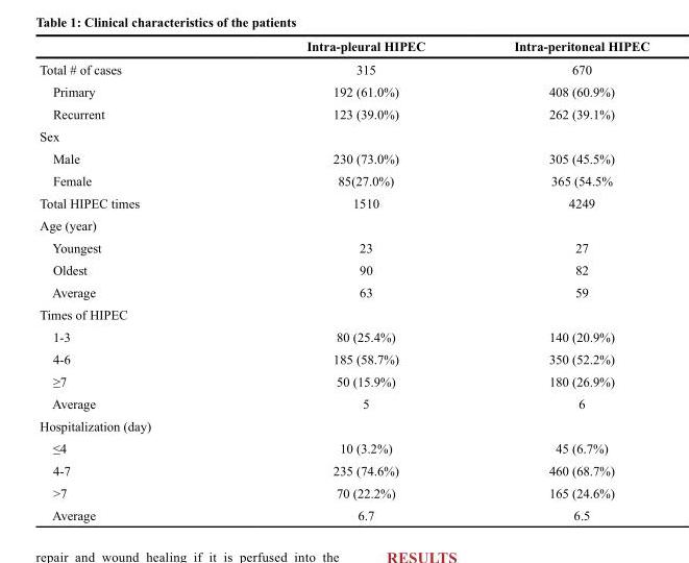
<table><thead><tr><td></td><td>Intra-pleural HIPEC</td><td>Intra-peritoneal HIPEC</td></tr></thead><tbody><tr><td>Total # of cases</td><td>315</td><td>670</td></tr><tr><td>Primary</td><td>192 (61.0%)</td><td>408 (60.9%)</td></tr><tr><td>Recurrent</td><td>123 (39.0%)</td><td>262 (39.1%)</td></tr><tr><td colspan="3">Sex</td></tr><tr><td>Male</td><td>230 (73.0%)</td><td>305 (45.5%)</td></tr><tr><td>Female</td><td>85(27.0%)</td><td>365 (54.5%</td></tr><tr><td>Total HIPEC times</td><td>1510</td><td>4249</td></tr><tr><td colspan="3">Age (year)</td></tr><tr><td>Youngest</td><td>23</td><td>27</td></tr><tr><td>Oldest</td><td>90</td><td>82</td></tr><tr><td>Average</td><td>63</td><td>59</td></tr><tr><td colspan="3">Times of HIPEC</td></tr><tr><td>1-3</td><td>80 (25.4%)</td><td>140 (20.9%)</td></tr><tr><td>4-6</td><td>185 (58.7%)</td><td>350 (52.2%)</td></tr><tr><td>≥7</td><td>50 (15.9%)</td><td>180 (26.9%)</td></tr><tr><td>Average</td><td>5</td><td>6</td></tr><tr><td colspan="3">Hospitalization (day)</td></tr><tr><td>≤4</td><td>10 (3.2%)</td><td>45 (6.7%)</td></tr><tr><td>4-7</td><td>235 (74.6%)</td><td>460 (68.7%)</td></tr><tr><td>&gt;7</td><td>70 (22.2%)</td><td>165 (24.6%)</td></tr><tr><td>Average</td><td>6.7</td><td>6.5</td></tr></tbody></table>